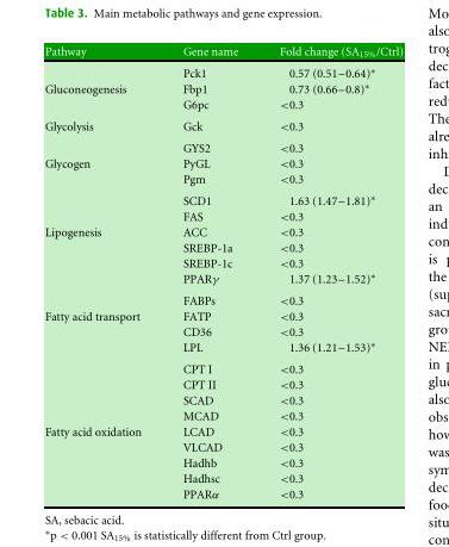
<table><thead><tr><td>Pathway</td><td>Gene name</td><td>Fold change (SA<sub>15%</sub>/Ctrl)</td></tr></thead><tbody><tr><td></td><td>Pck1</td><td>0.57 (0.51–0.64)∗</td></tr><tr><td rowspan="2">Gluconeogenesis</td><td>Fbp1</td><td>0.73 (0.66–0.8)∗</td></tr><tr><td>G6pc</td><td>&lt;0.3</td></tr><tr><td rowspan="2">Glycolysis</td><td>Gck</td><td>&lt;0.3</td></tr><tr><td>GYS2</td><td>&lt;0.3</td></tr><tr><td rowspan="4">Glycogen</td><td>PyGL</td><td>&lt;0.3</td></tr><tr><td>Pgm</td><td>&lt;0.3</td></tr><tr><td>SCD1</td><td>1.63 (1.47–1.81)∗</td></tr><tr><td>FAS</td><td>&lt;0.3</td></tr><tr><td rowspan="5">Lipogenesis</td><td>ACC</td><td>&lt;0.3</td></tr><tr><td>SREBP-1a</td><td>&lt;0.3</td></tr><tr><td>SREBP-1c</td><td>&lt;0.3</td></tr><tr><td>PPARγ</td><td>1.37 (1.23–1.52)∗</td></tr><tr><td>FABPs</td><td>&lt;0.3</td></tr><tr><td rowspan="7">Fatty acid transport</td><td>FATP</td><td>&lt;0.3</td></tr><tr><td>CD36</td><td>&lt;0.3</td></tr><tr><td>LPL</td><td>1.36 (1.21–1.53)∗</td></tr><tr><td>CPT I</td><td>&lt;0.3</td></tr><tr><td>CPT II</td><td>&lt;0.3</td></tr><tr><td>SCAD</td><td>&lt;0.3</td></tr><tr><td>MCAD</td><td>&lt;0.3</td></tr><tr><td rowspan="5">Fatty acid oxidation</td><td>LCAD</td><td>&lt;0.3</td></tr><tr><td>VLCAD</td><td>&lt;0.3</td></tr><tr><td>Hadhb</td><td>&lt;0.3</td></tr><tr><td>Hadhsc</td><td>&lt;0.3</td></tr><tr><td>PPARα</td><td>&lt;0.3</td></tr></tbody></table>